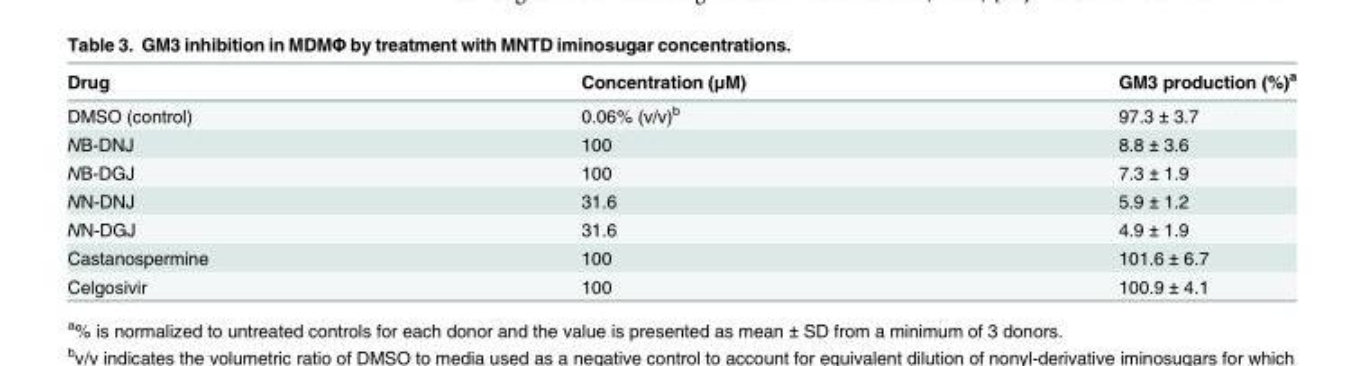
<table><thead><tr><td>Drug</td><td>Concentration (μM)</td><td>GM3 production (%)<sup>a</sup></td></tr></thead><tbody><tr><td>DMSO (control)</td><td>0.06% (v/v)<sup>b</sup></td><td>97.3 ± 3.7</td></tr><tr><td>NB-DNJ</td><td>100</td><td>8.8 ± 3.6</td></tr><tr><td>NB-DGJ</td><td>100</td><td>7.3 ± 1.9</td></tr><tr><td>NN-DNJ</td><td>31.6</td><td>5.9 ± 1.2</td></tr><tr><td>NN-DGJ</td><td>31.6</td><td>4.9 ± 1.9</td></tr><tr><td>Castanospermine</td><td>100</td><td>101.6 ± 6.7</td></tr><tr><td>Celgosivir</td><td>100</td><td>100.9 ± 4.1</td></tr></tbody></table>